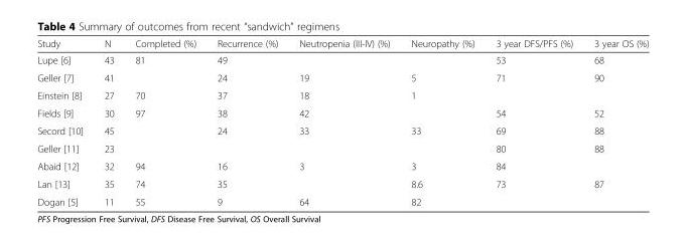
<table><thead><tr><td>Study</td><td>N</td><td>Completed (%)</td><td>Recurrence (%)</td><td>Neutropenia (III-IV) (%)</td><td>Neuropathy (%)</td><td>3 year DFS/PFS (%)</td><td>3 year OS (%)</td></tr></thead><tbody><tr><td>Lupe [6]</td><td>43</td><td>81</td><td>49</td><td></td><td></td><td>53</td><td>68</td></tr><tr><td>Geller [7]</td><td>41</td><td></td><td>24</td><td>19</td><td>5</td><td>71</td><td>90</td></tr><tr><td>Einstein [8]</td><td>27</td><td>70</td><td>37</td><td>18</td><td>1</td><td></td><td></td></tr><tr><td>Fields [9]</td><td>30</td><td>97</td><td>38</td><td>42</td><td></td><td>54</td><td>52</td></tr><tr><td>Secord [10]</td><td>45</td><td></td><td>24</td><td>33</td><td>33</td><td>69</td><td>88</td></tr><tr><td>Geller [11]</td><td>23</td><td></td><td></td><td></td><td></td><td>80</td><td>88</td></tr><tr><td>Abaid [12]</td><td>32</td><td>94</td><td>16</td><td>3</td><td>3</td><td>84</td><td></td></tr><tr><td>Lan [13]</td><td>35</td><td>74</td><td>35</td><td></td><td>8.6</td><td>73</td><td>87</td></tr><tr><td>Dogan [5]</td><td>11</td><td>55</td><td>9</td><td>64</td><td>82</td><td></td><td></td></tr></tbody></table>